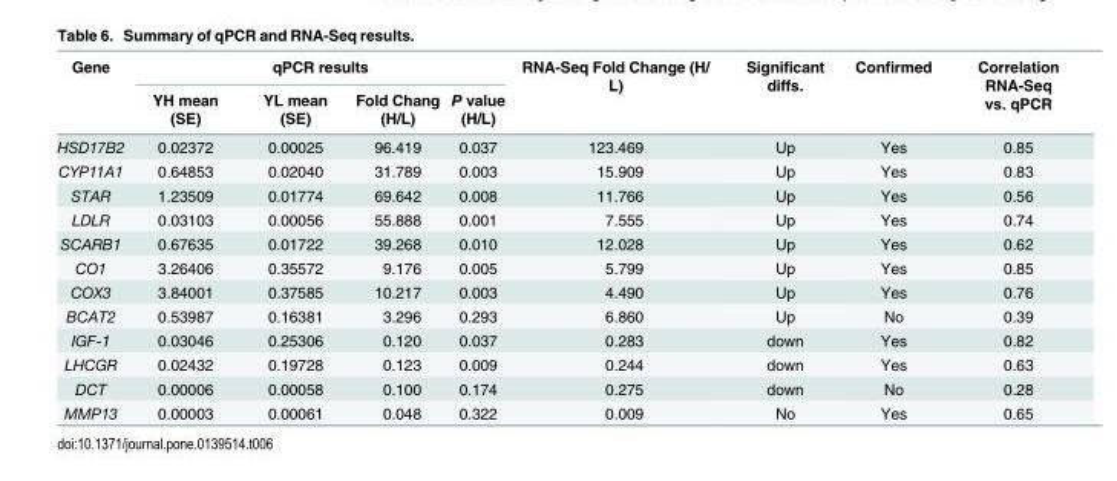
<table><thead><tr><td rowspan="2">Gene</td><td colspan="4">qPCR results</td><td rowspan="2">RNA-Seq Fold Change (H/ L)</td><td rowspan="2">Significant diffs.</td><td rowspan="2">Confirmed</td><td rowspan="2">Correlation RNA-Seq vs. qPCR</td></tr><tr><td>YH mean (SE)</td><td>YL mean (SE)</td><td>Fold Chang (H/L)</td><td>P value (H/L)</td></tr></thead><tbody><tr><td>HSD17B2</td><td>0.02372</td><td>0.00025</td><td>96.419</td><td>0.037</td><td>123.469</td><td>Up</td><td>Yes</td><td>0.85</td></tr><tr><td>CYP11A1</td><td>0.64853</td><td>0.02040</td><td>31.789</td><td>0.003</td><td>15.909</td><td>Up</td><td>Yes</td><td>0.83</td></tr><tr><td>STAR</td><td>1.23509</td><td>0.01774</td><td>69.642</td><td>0.008</td><td>11.766</td><td>Up</td><td>Yes</td><td>0.56</td></tr><tr><td>LDLR</td><td>0.03103</td><td>0.00056</td><td>55.888</td><td>0.001</td><td>7.555</td><td>Up</td><td>Yes</td><td>0.74</td></tr><tr><td>SCARB1</td><td>0.67635</td><td>0.01722</td><td>39.268</td><td>0.010</td><td>12.028</td><td>Up</td><td>Yes</td><td>0.62</td></tr><tr><td>CO1</td><td>3.26406</td><td>0.35572</td><td>9.176</td><td>0.005</td><td>5.799</td><td>Up</td><td>Yes</td><td>0.85</td></tr><tr><td>COX3</td><td>3.84001</td><td>0.37585</td><td>10.217</td><td>0.003</td><td>4.490</td><td>Up</td><td>Yes</td><td>0.76</td></tr><tr><td>BCAT2</td><td>0.53987</td><td>0.16381</td><td>3.296</td><td>0.293</td><td>6.860</td><td>Up</td><td>No</td><td>0.39</td></tr><tr><td>IGF-1</td><td>0.03046</td><td>0.25306</td><td>0.120</td><td>0.037</td><td>0.283</td><td>down</td><td>Yes</td><td>0.82</td></tr><tr><td>LHCGR</td><td>0.02432</td><td>0.19728</td><td>0.123</td><td>0.009</td><td>0.244</td><td>down</td><td>Yes</td><td>0.63</td></tr><tr><td>DCT</td><td>0.00006</td><td>0.00058</td><td>0.100</td><td>0.174</td><td>0.275</td><td>down</td><td>No</td><td>0.28</td></tr><tr><td>MMP13</td><td>0.00003</td><td>0.00061</td><td>0.048</td><td>0.322</td><td>0.009</td><td>No</td><td>Yes</td><td>0.65</td></tr></tbody></table>